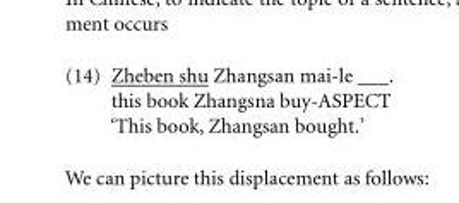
<table><tbody><tr><td rowspan="3">(14)</td><td>Zheben shu Zhangsan mai-le ___.</td></tr><tr><td>this book Zhangsna buy-ASPECT</td></tr><tr><td>‘This book, Zhangsan bought.’</td></tr></tbody></table>